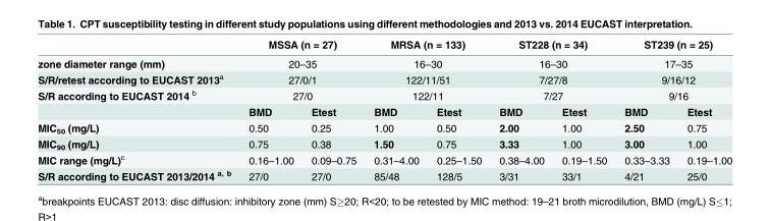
<table><thead><tr><td></td><td colspan="2">MSSA (n = 27)</td><td colspan="2">MRSA (n = 133)</td><td colspan="2">ST228 (n = 34)</td><td colspan="2">ST239 (n = 25)</td></tr></thead><tbody><tr><td>zone diameter range (mm)</td><td colspan="2">20–35</td><td colspan="2">16–30</td><td colspan="2">16–30</td><td colspan="2">17–35</td></tr><tr><td>S/R/retest according to EUCAST 2013<sup>a</sup></td><td colspan="2">27/0/1</td><td colspan="2">122/11/51</td><td colspan="2">7/27/8</td><td colspan="2">9/16/12</td></tr><tr><td rowspan="2">S/R according to EUCAST 2014 <sup>b</sup></td><td colspan="2">27/0</td><td colspan="2">122/11</td><td colspan="2">7/27</td><td colspan="2">9/16</td></tr><tr><td>BMD</td><td>Etest</td><td>BMD</td><td>Etest</td><td>BMD</td><td>Etest</td><td>BMD</td><td>Etest</td></tr><tr><td>MIC<sub>50</sub> (mg/L)</td><td>0.50</td><td>0.25</td><td>1.00</td><td>0.50</td><td>2.00</td><td>1.00</td><td>2.50</td><td>0.75</td></tr><tr><td>MIC<sub>90</sub> (mg/L)</td><td>0.75</td><td>0.38</td><td>1.50</td><td>0.75</td><td>3.33</td><td>1.00</td><td>3.00</td><td>1.00</td></tr><tr><td>MIC range (mg/L)<sup>c</sup></td><td>0.16–1.00</td><td>0.09–0.75</td><td>0.31–4.00</td><td>0.25–1.50</td><td>0.38–4.00</td><td>0.19–1.50</td><td>0.33–3.33</td><td>0.19–1.00</td></tr><tr><td>S/R according to EUCAST 2013/2014 <sup>a, b</sup></td><td>27/0</td><td>27/0</td><td>85/48</td><td>128/5</td><td>3/31</td><td>33/1</td><td>4/21</td><td>25/0</td></tr></tbody></table>